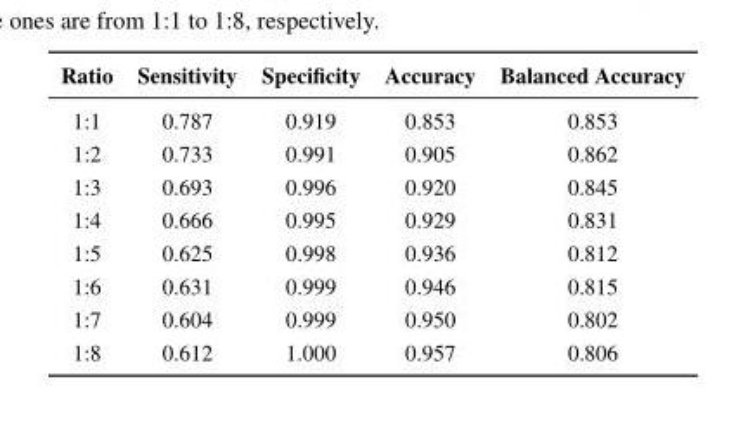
<table><thead><tr><td>Ratio</td><td>Sensitivity</td><td>Specificity</td><td>Accuracy</td><td>Balanced Accuracy</td></tr></thead><tbody><tr><td>1:1</td><td>0.787</td><td>0.919</td><td>0.853</td><td>0.853</td></tr><tr><td>1:2</td><td>0.733</td><td>0.991</td><td>0.905</td><td>0.862</td></tr><tr><td>1:3</td><td>0.693</td><td>0.996</td><td>0.920</td><td>0.845</td></tr><tr><td>1:4</td><td>0.666</td><td>0.995</td><td>0.929</td><td>0.831</td></tr><tr><td>1:5</td><td>0.625</td><td>0.998</td><td>0.936</td><td>0.812</td></tr><tr><td>1:6</td><td>0.631</td><td>0.999</td><td>0.946</td><td>0.815</td></tr><tr><td>1:7</td><td>0.604</td><td>0.999</td><td>0.950</td><td>0.802</td></tr><tr><td>1:8</td><td>0.612</td><td>1.000</td><td>0.957</td><td>0.806</td></tr></tbody></table>